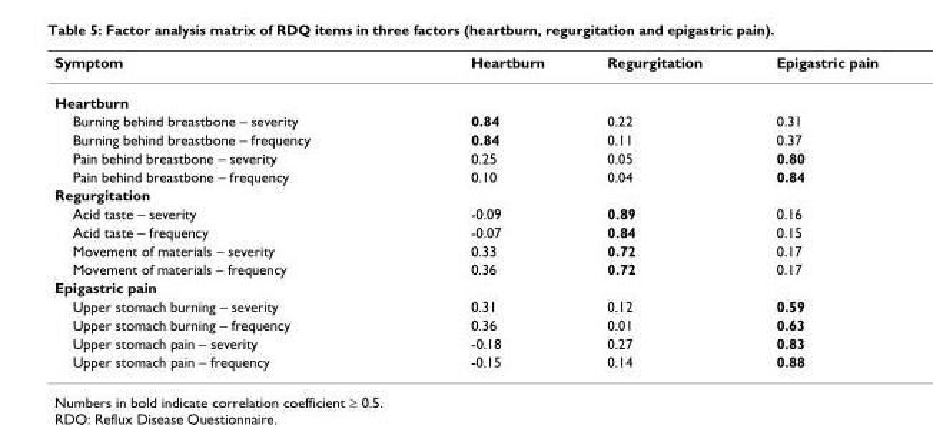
<table><thead><tr><td>Symptom</td><td>Heartburn</td><td>Regurgitation</td><td>Epigastric pain</td></tr></thead><tbody><tr><td colspan="4">Heartburn</td></tr><tr><td>Burning behind breastbone – severity</td><td>0.84</td><td>0.22</td><td>0.31</td></tr><tr><td>Burning behind breastbone – frequency</td><td>0.84</td><td>0.11</td><td>0.37</td></tr><tr><td>Pain behind breastbone – severity</td><td>0.25</td><td>0.05</td><td>0.80</td></tr><tr><td>Pain behind breastbone – frequency</td><td>0.10</td><td>0.04</td><td>0.84</td></tr><tr><td colspan="4">Regurgitation</td></tr><tr><td>Acid taste – severity</td><td>-0.09</td><td>0.89</td><td>0.16</td></tr><tr><td>Acid taste – frequency</td><td>-0.07</td><td>0.84</td><td>0.15</td></tr><tr><td>Movement of materials – severity</td><td>0.33</td><td>0.72</td><td>0.17</td></tr><tr><td>Movement of materials – frequency</td><td>0.36</td><td>0.72</td><td>0.17</td></tr><tr><td colspan="4">Epigastric pain</td></tr><tr><td>Upper stomach burning – severity</td><td>0.31</td><td>0.12</td><td>0.59</td></tr><tr><td>Upper stomach burning – frequency</td><td>0.36</td><td>0.01</td><td>0.63</td></tr><tr><td>Upper stomach pain – severity</td><td>-0.18</td><td>0.27</td><td>0.83</td></tr><tr><td>Upper stomach pain – frequency</td><td>-0.15</td><td>0.14</td><td>0.88</td></tr></tbody></table>